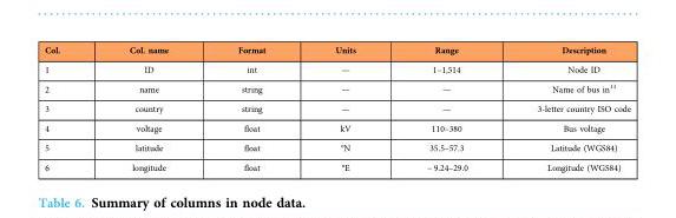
<table><thead><tr><td>Col.</td><td>Col. name</td><td>Format</td><td>Units</td><td>Range</td><td>Description</td></tr></thead><tbody><tr><td>1</td><td>ID</td><td>int</td><td>—</td><td>1–1,514</td><td>Node ID</td></tr><tr><td>2</td><td>name</td><td>string</td><td>—</td><td>—</td><td>Name of bus in<sup>11</sup></td></tr><tr><td>3</td><td>country</td><td>string</td><td>—</td><td>—</td><td>3-letter country ISO code</td></tr><tr><td>4</td><td>voltage</td><td>float</td><td>kV</td><td>110–380</td><td>Bus voltage</td></tr><tr><td>5</td><td>latitude</td><td>float</td><td>°N</td><td>35.5–57.3</td><td>Latitude (WGS84)</td></tr><tr><td>6</td><td>longitude</td><td>float</td><td>°E</td><td>− 9.24–29.0</td><td>Longitude (WGS84)</td></tr></tbody></table>